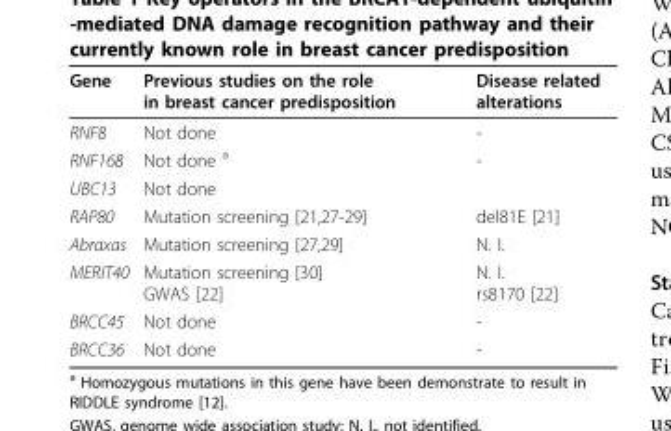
<table><thead><tr><td>Gene</td><td>Previous studies on the role in breast cancer predisposition</td><td>Disease related alterations</td></tr></thead><tbody><tr><td>RNF8</td><td>Not done</td><td>-</td></tr><tr><td>RNF168</td><td>Not done <sup>a</sup></td><td>-</td></tr><tr><td>UBC13</td><td>Not done</td><td></td></tr><tr><td>RAP80</td><td>Mutation screening [21,27-29]</td><td>del81E [21]</td></tr><tr><td>Abraxas</td><td>Mutation screening [27,29]</td><td>N. I.</td></tr><tr><td>MERIT40</td><td>Mutation screening [30] GWAS [22]</td><td>N. I. rs8170 [22]</td></tr><tr><td>BRCC45</td><td>Not done</td><td>-</td></tr><tr><td>BRCC36</td><td>Not done</td><td>-</td></tr></tbody></table>